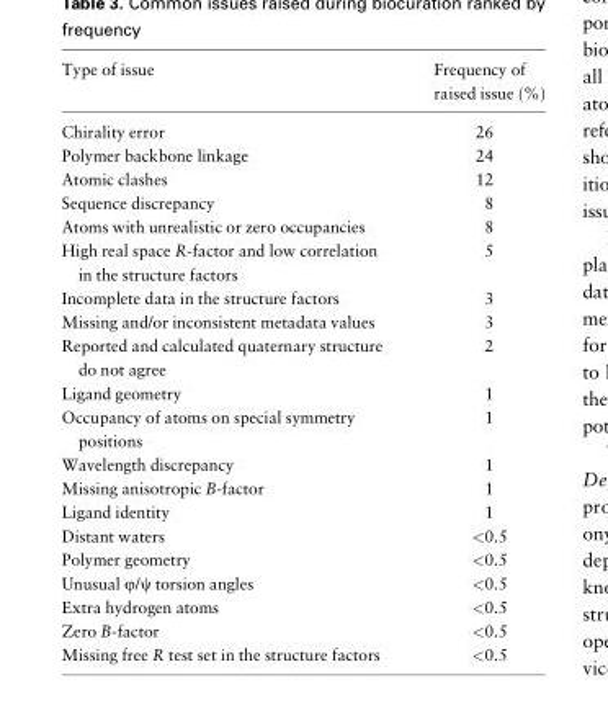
<table><thead><tr><td>Type of issue</td><td>Frequency of raised issue (%)</td></tr></thead><tbody><tr><td>Chirality error</td><td>26</td></tr><tr><td>Polymer backbone linkage</td><td>24</td></tr><tr><td>Atomic clashes</td><td>12</td></tr><tr><td>Sequence discrepancy</td><td>8</td></tr><tr><td>Atoms with unrealistic or zero occupancies</td><td>8</td></tr><tr><td>High real space R-factor and low correlation in the structure factors</td><td>5</td></tr><tr><td>Incomplete data in the structure factors</td><td>3</td></tr><tr><td>Missing and/or inconsistent metadata values</td><td>3</td></tr><tr><td>Reported and calculated quaternary structure do not agree</td><td>2</td></tr><tr><td>Ligand geometry</td><td>1</td></tr><tr><td>Occupancy of atoms on special symmetry positions</td><td>1</td></tr><tr><td>Wavelength discrepancy</td><td>1</td></tr><tr><td>Missing anisotropic B-factor</td><td>1</td></tr><tr><td>Ligand identity</td><td>1</td></tr><tr><td>Distant waters</td><td>&lt;0.5</td></tr><tr><td>Polymer geometry</td><td>&lt;0.5</td></tr><tr><td>Unusual φ/ψ torsion angles</td><td>&lt;0.5</td></tr><tr><td>Extra hydrogen atoms</td><td>&lt;0.5</td></tr><tr><td>Zero B-factor</td><td>&lt;0.5</td></tr><tr><td>Missing free R test set in the structure factors</td><td>&lt;0.5</td></tr></tbody></table>